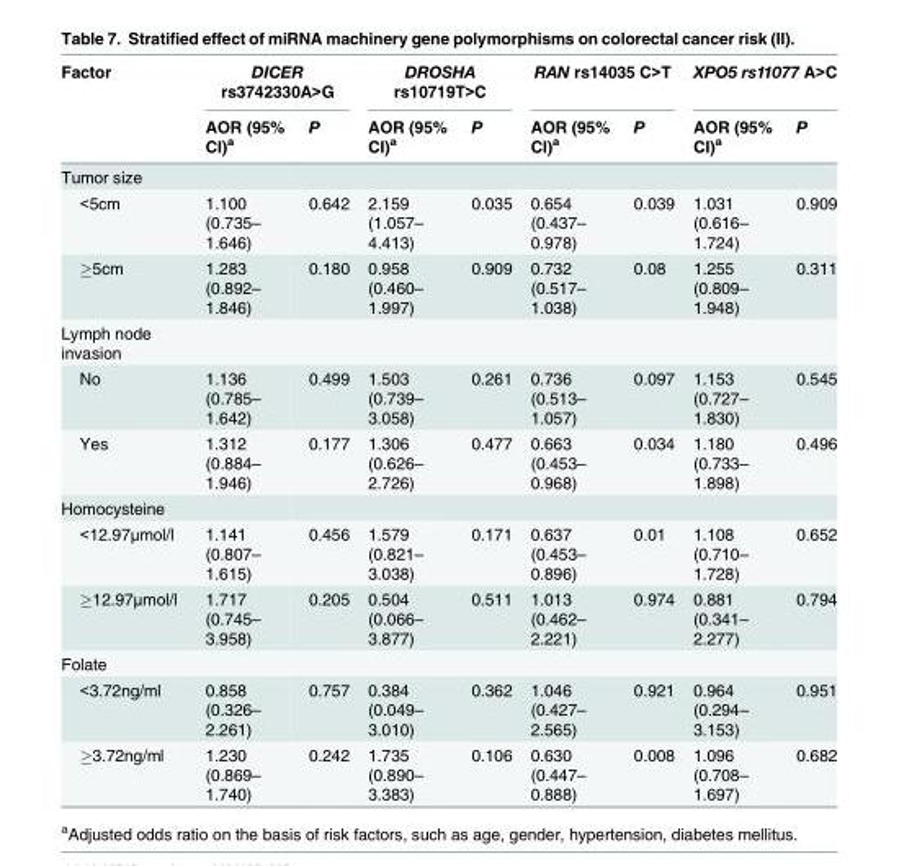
<table><thead><tr><td rowspan="2">Factor</td><td colspan="2">DICER rs3742330A&gt;G</td><td colspan="2">DROSHA rs10719T&gt;C</td><td colspan="2">RAN rs14035 C&gt;T</td><td colspan="2">XPO5 rs11077 A&gt;C</td></tr><tr><td>AOR (95% CI)<sup>a</sup></td><td>P</td><td>AOR (95% CI)<sup>a</sup></td><td>P</td><td>AOR (95% CI)<sup>a</sup></td><td>P</td><td>AOR (95% CI)<sup>a</sup></td><td>P</td></tr></thead><tbody><tr><td colspan="9">Tumor size</td></tr><tr><td>&lt;5cm</td><td>1.100 (0.735– 1.646)</td><td>0.642</td><td>2.159 (1.057– 4.413)</td><td>0.035</td><td>0.654 (0.437– 0.978)</td><td>0.039</td><td>1.031 (0.616– 1.724)</td><td>0.909</td></tr><tr><td>≥5cm</td><td>1.283 (0.892– 1.846)</td><td>0.180</td><td>0.958 (0.460– 1.997)</td><td>0.909</td><td>0.732 (0.517– 1.038)</td><td>0.08</td><td>1.255 (0.809– 1.948)</td><td>0.311</td></tr><tr><td colspan="9">Lymph node invasion</td></tr><tr><td>No</td><td>1.136 (0.785– 1.642)</td><td>0.499</td><td>1.503 (0.739– 3.058)</td><td>0.261</td><td>0.736 (0.513– 1.057)</td><td>0.097</td><td>1.153 (0.727– 1.830)</td><td>0.545</td></tr><tr><td>Yes</td><td>1.312 (0.884– 1.946)</td><td>0.177</td><td>1.306 (0.626– 2.726)</td><td>0.477</td><td>0.663 (0.453– 0.968)</td><td>0.034</td><td>1.180 (0.733– 1.898)</td><td>0.496</td></tr><tr><td colspan="9">Homocysteine</td></tr><tr><td>&lt;12.97μmol/l</td><td>1.141 (0.807– 1.615)</td><td>0.456</td><td>1.579 (0.821– 3.038)</td><td>0.171</td><td>0.637 (0.453– 0.896)</td><td>0.01</td><td>1.108 (0.710– 1.728)</td><td>0.652</td></tr><tr><td>≥12.97μmol/l</td><td>1.717 (0.745– 3.958)</td><td>0.205</td><td>0.504 (0.066– 3.877)</td><td>0.511</td><td>1.013 (0.462– 2.221)</td><td>0.974</td><td>0.881 (0.341– 2.277)</td><td>0.794</td></tr><tr><td colspan="9">Folate</td></tr><tr><td>&lt;3.72ng/ml</td><td>0.858 (0.326– 2.261)</td><td>0.757</td><td>0.384 (0.049– 3.010)</td><td>0.362</td><td>1.046 (0.427– 2.565)</td><td>0.921</td><td>0.964 (0.294– 3.153)</td><td>0.951</td></tr><tr><td>≥3.72ng/ml</td><td>1.230 (0.869– 1.740)</td><td>0.242</td><td>1.735 (0.890– 3.383)</td><td>0.106</td><td>0.630 (0.447– 0.888)</td><td>0.008</td><td>1.096 (0.708– 1.697)</td><td>0.682</td></tr></tbody></table>